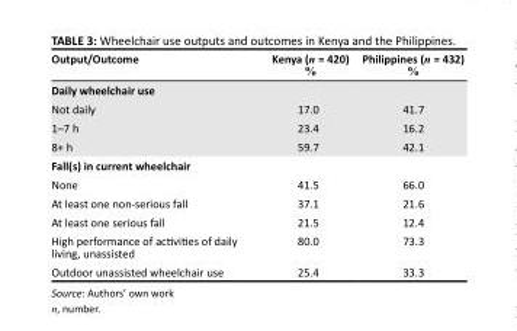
<table><thead><tr><td>Output/Outcome</td><td>Kenya (n = 420) %</td><td>Philippines (n = 432) %</td></tr></thead><tbody><tr><td colspan="3">Daily wheelchair use</td></tr><tr><td>Not daily</td><td>17.0</td><td>41.7</td></tr><tr><td>1–7 h</td><td>23.4</td><td>16.2</td></tr><tr><td>8+ h</td><td>59.7</td><td>42.1</td></tr><tr><td colspan="3">Fall(s) in current wheelchair</td></tr><tr><td>None</td><td>41.5</td><td>66.0</td></tr><tr><td>At least one non-serious fall</td><td>37.1</td><td>21.6</td></tr><tr><td>At least one serious fall</td><td>21.5</td><td>12.4</td></tr><tr><td>High performance of activities of daily living, unassisted</td><td>80.0</td><td>73.3</td></tr><tr><td>Outdoor unassisted wheelchair use</td><td>25.4</td><td>33.3</td></tr></tbody></table>